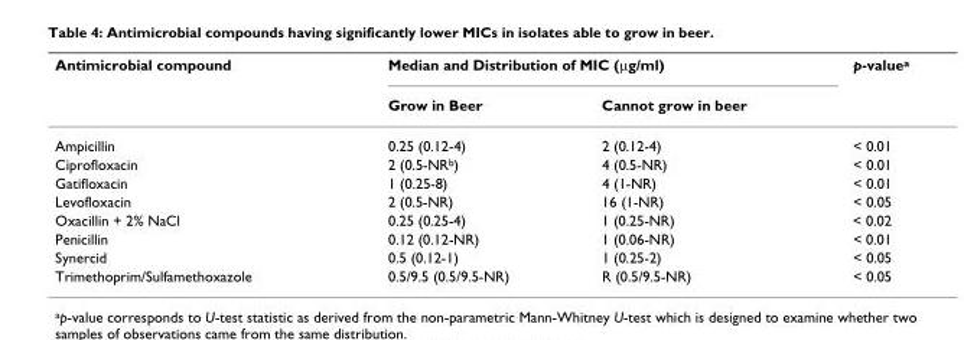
<table><thead><tr><td rowspan="2">Antimicrobial compound</td><td colspan="2">Median and Distribution of MIC (μg/ml)</td><td rowspan="2">p-value<sup>a</sup></td></tr><tr><td>Grow in Beer</td><td>Cannot grow in beer</td></tr></thead><tbody><tr><td>Ampicillin</td><td>0.25 (0.12-4)</td><td>2 (0.12-4)</td><td>&lt; 0.01</td></tr><tr><td>Ciprofloxacin</td><td>2 (0.5-NR<sup>b</sup>)</td><td>4 (0.5-NR)</td><td>&lt; 0.01</td></tr><tr><td>Gatifloxacin</td><td>1 (0.25-8)</td><td>4 (1-NR)</td><td>&lt; 0.01</td></tr><tr><td>Levofloxacin</td><td>2 (0.5-NR)</td><td>16 (1-NR)</td><td>&lt; 0.05</td></tr><tr><td>Oxacillin + 2% NaCl</td><td>0.25 (0.25-4)</td><td>1 (0.25-NR)</td><td>&lt; 0.02</td></tr><tr><td>Penicillin</td><td>0.12 (0.12-NR)</td><td>1 (0.06-NR)</td><td>&lt; 0.01</td></tr><tr><td>Synercid</td><td>0.5 (0.12-1)</td><td>1 (0.25-2)</td><td>&lt; 0.05</td></tr><tr><td>Trimethoprim/Sulfamethoxazole</td><td>0.5/9.5 (0.5/9.5-NR)</td><td>R (0.5/9.5-NR)</td><td>&lt; 0.05</td></tr></tbody></table>